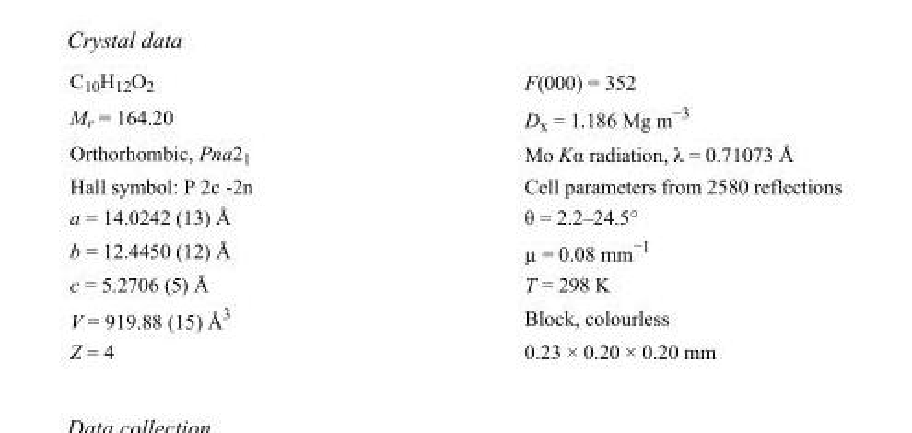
<table><tbody><tr><td>C<sub>10</sub>H<sub>12</sub>O<sub>2</sub></td><td>F(000) = 352</td></tr><tr><td>M<sub>r</sub> = 164.20</td><td>D<sub>x</sub> = 1.186 Mg m<sup>−3</sup></td></tr><tr><td>Orthorhombic, Pna2<sub>1</sub></td><td>Mo Kα radiation, λ = 0.71073 Å</td></tr><tr><td>Hall symbol: P 2c -2n</td><td>Cell parameters from 2580 reflections</td></tr><tr><td>a = 14.0242 (13) Å</td><td>θ = 2.2–24.5°</td></tr><tr><td>b = 12.4450 (12) Å</td><td>µ = 0.08 mm<sup>−1</sup></td></tr><tr><td>c = 5.2706 (5) Å</td><td>T = 298 K</td></tr><tr><td>V = 919.88 (15) Å<sup>3</sup></td><td>Block, colourless</td></tr><tr><td>Z = 4</td><td>0.23 × 0.20 × 0.20 mm</td></tr></tbody></table>